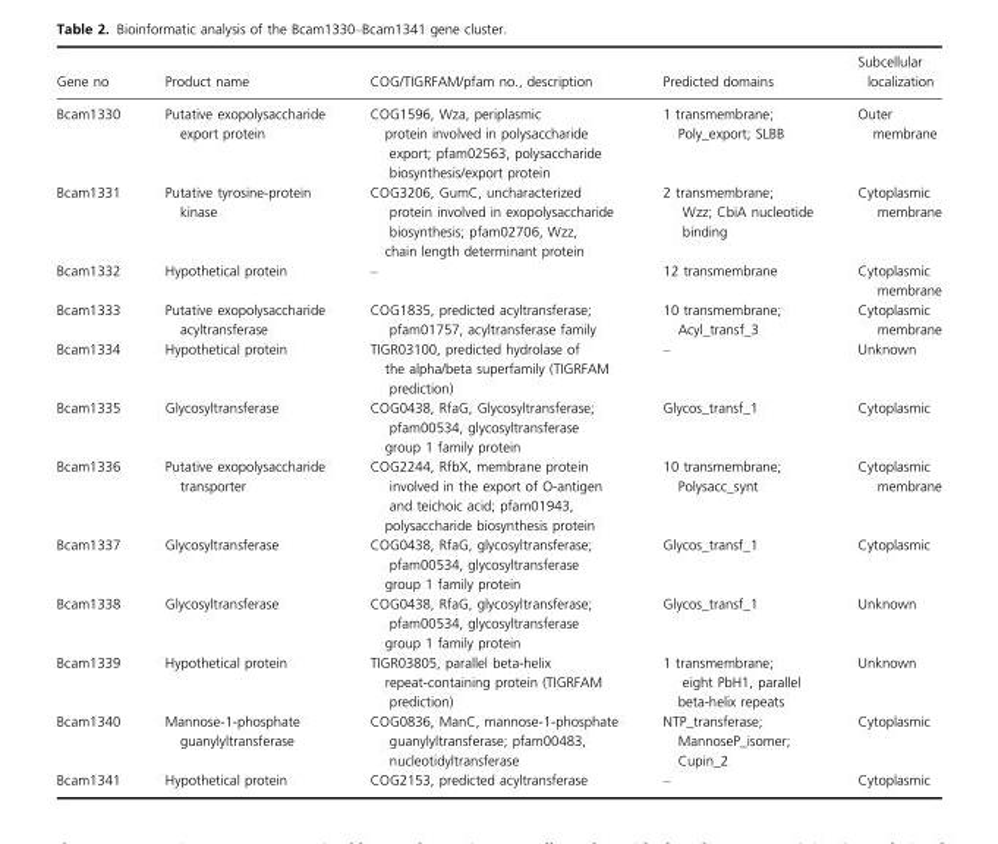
<table><thead><tr><td>Gene no</td><td>Product name</td><td>COG/TIGRFAM/pfam no., description</td><td>Predicted domains</td><td>Subcellular localization</td></tr></thead><tbody><tr><td>Bcam1330</td><td>Putative exopolysaccharide export protein</td><td>COG1596, Wza, periplasmic protein involved in polysaccharide export; pfam02563, polysaccharide biosynthesis/export protein</td><td>1 transmembrane; Poly_export; SLBB</td><td>Outer membrane</td></tr><tr><td>Bcam1331</td><td>Putative tyrosine-protein kinase</td><td>COG3206, GumC, uncharacterized protein involved in exopolysaccharide biosynthesis; pfam02706, Wzz, chain length determinant protein</td><td>2 transmembrane; Wzz; CbiA nucleotide binding</td><td>Cytoplasmic membrane</td></tr><tr><td>Bcam1332</td><td>Hypothetical protein</td><td>–</td><td>12 transmembrane</td><td>Cytoplasmic membrane</td></tr><tr><td>Bcam1333</td><td>Putative exopolysaccharide acyltransferase</td><td>COG1835, predicted acyltransferase; pfam01757, acyltransferase family</td><td>10 transmembrane; Acyl_transf_3</td><td>Cytoplasmic membrane</td></tr><tr><td>Bcam1334</td><td>Hypothetical protein</td><td>TIGR03100, predicted hydrolase of the alpha/beta superfamily (TIGRFAM prediction)</td><td>–</td><td>Unknown</td></tr><tr><td>Bcam1335</td><td>Glycosyltransferase</td><td>COG0438, RfaG, Glycosyltransferase; pfam00534, glycosyltransferase group 1 family protein</td><td>Glycos_transf_1</td><td>Cytoplasmic</td></tr><tr><td>Bcam1336</td><td>Putative exopolysaccharide transporter</td><td>COG2244, RfbX, membrane protein involved in the export of O-antigen and teichoic acid; pfam01943, polysaccharide biosynthesis protein</td><td>10 transmembrane; Polysacc_synt</td><td>Cytoplasmic membrane</td></tr><tr><td>Bcam1337</td><td>Glycosyltransferase</td><td>COG0438, RfaG, glycosyltransferase; pfam00534, glycosyltransferase group 1 family protein</td><td>Glycos_transf_1</td><td>Cytoplasmic</td></tr><tr><td>Bcam1338</td><td>Glycosyltransferase</td><td>COG0438, RfaG, glycosyltransferase; pfam00534, glycosyltransferase group 1 family protein</td><td>Glycos_transf_1</td><td>Unknown</td></tr><tr><td>Bcam1339</td><td>Hypothetical protein</td><td>TIGR03805, parallel beta-helix repeat-containing protein (TIGRFAM prediction)</td><td>1 transmembrane; eight PbH1, parallel beta-helix repeats</td><td>Unknown</td></tr><tr><td>Bcam1340</td><td>Mannose-1-phosphate guanylyltransferase</td><td>COG0836, ManC, mannose-1-phosphate guanylyltransferase; pfam00483, nucleotidyltransferase</td><td>NTP_transferase; MannoseP_isomer; Cupin_2</td><td>Cytoplasmic</td></tr><tr><td>Bcam1341</td><td>Hypothetical protein</td><td>COG2153, predicted acyltransferase</td><td>–</td><td>Cytoplasmic</td></tr></tbody></table>